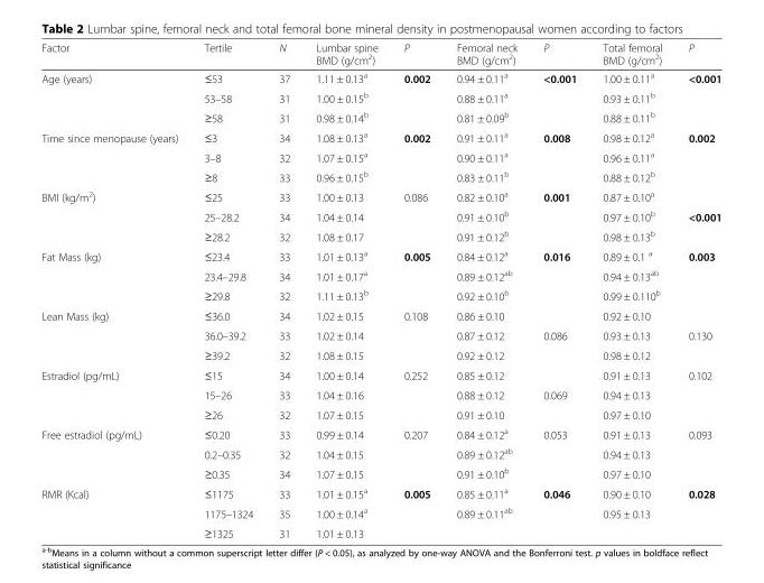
<table><thead><tr><td>Factor</td><td>Tertile</td><td>N</td><td>Lumbar spine BMD (g/cm<sup>2</sup>)</td><td>P</td><td>Femoral neck BMD (g/cm<sup>2</sup>)</td><td>P</td><td>Total femoral BMD (g/cm<sup>2</sup>)</td><td>P</td></tr></thead><tbody><tr><td rowspan="3">Age (years)</td><td>≤53</td><td>37</td><td>1.11 ± 0.13<sup>a</sup></td><td rowspan="3">0.002</td><td>0.94 ± 0.11<sup>a</sup></td><td rowspan="3">&lt;0.001</td><td>1.00 ± 0.11<sup>a</sup></td><td rowspan="3">&lt;0.001</td></tr><tr><td>53–58</td><td>31</td><td>1.00 ± 0.15<sup>b</sup></td><td>0.88 ± 0.11<sup>a</sup></td><td>0.93 ± 0.11<sup>b</sup></td></tr><tr><td>≥58</td><td>31</td><td>0.98 ± 0.14<sup>b</sup></td><td>0.81 ± 0.09<sup>b</sup></td><td>0.88 ± 0.11<sup>b</sup></td></tr><tr><td rowspan="3">Time since menopause (years)</td><td>≤3</td><td>34</td><td>1.08 ± 0.13<sup>a</sup></td><td rowspan="3">0.002</td><td>0.91 ± 0.11<sup>a</sup></td><td rowspan="3">0.008</td><td>0.98 ± 0.12<sup>a</sup></td><td rowspan="3">0.002</td></tr><tr><td>3–8</td><td>32</td><td>1.07 ± 0.15<sup>a</sup></td><td>0.90 ± 0.11<sup>a</sup></td><td>0.96 ± 0.11<sup>a</sup></td></tr><tr><td>≥8</td><td>33</td><td>0.96 ± 0.15<sup>b</sup></td><td>0.83 ± 0.11<sup>b</sup></td><td>0.88 ± 0.12<sup>b</sup></td></tr><tr><td rowspan="3">BMI (kg/m<sup>2</sup>)</td><td>≤25</td><td>33</td><td>1.00 ± 0.13</td><td rowspan="3">0.086</td><td>0.82 ± 0.10<sup>a</sup></td><td rowspan="3">0.001</td><td>0.87 ± 0.10<sup>a</sup></td><td></td></tr><tr><td>25–28.2</td><td>34</td><td>1.04 ± 0.14</td><td>0.91 ± 0.10<sup>b</sup></td><td>0.97 ± 0.10<sup>b</sup></td><td>&lt;0.001</td></tr><tr><td>≥28.2</td><td>32</td><td>1.08 ± 0.17</td><td>0.91 ± 0.12<sup>b</sup></td><td>0.98 ± 0.13<sup>b</sup></td><td></td></tr><tr><td rowspan="3">Fat Mass (kg)</td><td>≤23.4</td><td>33</td><td>1.01 ± 0.13<sup>a</sup></td><td rowspan="3">0.005</td><td>0.84 ± 0.12<sup>a</sup></td><td rowspan="3">0.016</td><td>0.89 ± 0.1 <sup>a</sup></td><td rowspan="3">0.003</td></tr><tr><td>23.4–29.8</td><td>34</td><td>1.01 ± 0.17<sup>a</sup></td><td>0.89 ± 0.12<sup>ab</sup></td><td>0.94 ± 0.13<sup>ab</sup></td></tr><tr><td>≥29.8</td><td>32</td><td>1.11 ± 0.13<sup>b</sup></td><td>0.92 ± 0.10<sup>b</sup></td><td>0.99 ± 0.110<sup>b</sup></td></tr><tr><td rowspan="3">Lean Mass (kg)</td><td>≤36.0</td><td>34</td><td>1.02 ± 0.15</td><td rowspan="3">0.108</td><td>0.86 ± 0.10</td><td></td><td>0.92 ± 0.10</td><td></td></tr><tr><td>36.0–39.2</td><td>33</td><td>1.02 ± 0.14</td><td>0.87 ± 0.12</td><td>0.086</td><td>0.93 ± 0.13</td><td>0.130</td></tr><tr><td>≥39.2</td><td>32</td><td>1.08 ± 0.15</td><td>0.92 ± 0.12</td><td></td><td>0.98 ± 0.12</td><td></td></tr><tr><td rowspan="3">Estradiol (pg/mL)</td><td>≤15</td><td>34</td><td>1.00 ± 0.14</td><td rowspan="3">0.252</td><td>0.85 ± 0.12</td><td></td><td>0.91 ± 0.13</td><td rowspan="3">0.102</td></tr><tr><td>15–26</td><td>33</td><td>1.04 ± 0.16</td><td>0.88 ± 0.12</td><td>0.069</td><td>0.94 ± 0.13</td></tr><tr><td>≥26</td><td>32</td><td>1.07 ± 0.15</td><td>0.91 ± 0.10</td><td></td><td>0.97 ± 0.10</td></tr><tr><td rowspan="3">Free estradiol (pg/mL)</td><td>≤0.20</td><td>33</td><td>0.99 ± 0.14</td><td rowspan="3">0.207</td><td>0.84 ± 0.12<sup>a</sup></td><td rowspan="3">0.053</td><td>0.91 ± 0.13</td><td rowspan="3">0.093</td></tr><tr><td>0.2–0.35</td><td>32</td><td>1.04 ± 0.15</td><td>0.89 ± 0.12<sup>ab</sup></td><td>0.94 ± 0.13</td></tr><tr><td>≥0.35</td><td>34</td><td>1.07 ± 0.15</td><td>0.91 ± 0.10<sup>b</sup></td><td>0.97 ± 0.10</td></tr><tr><td rowspan="3">RMR (Kcal)</td><td>≤1175</td><td>33</td><td>1.01 ± 0.15<sup>a</sup></td><td rowspan="2">0.005</td><td>0.85 ± 0.11<sup>a</sup></td><td rowspan="2">0.046</td><td>0.90 ± 0.10</td><td rowspan="2">0.028</td></tr><tr><td>1175–1324</td><td>35</td><td>1.00 ± 0.14<sup>a</sup></td><td>0.89 ± 0.11<sup>ab</sup></td><td>0.95 ± 0.13</td></tr><tr><td>≥1325</td><td>31</td><td>1.01 ± 0.13</td><td></td><td></td><td></td><td></td><td></td></tr></tbody></table>